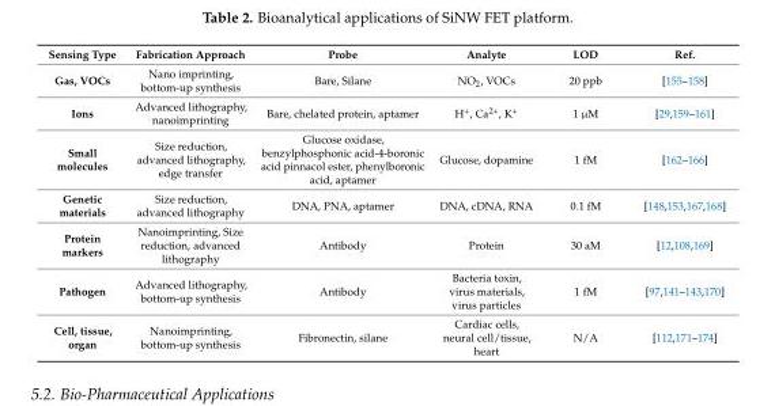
<table><thead><tr><td>Sensing Type</td><td>Fabrication Approach</td><td>Probe</td><td>Analyte</td><td>LOD</td><td>Ref.</td></tr></thead><tbody><tr><td>Gas, VOCs</td><td>Nano imprinting, bottom-up synthesis</td><td>Bare, Silane</td><td>NO<sub>2</sub>, VOCs</td><td>20 ppb</td><td>[155–158]</td></tr><tr><td>Ions</td><td>Advanced lithography, nanoimprinting</td><td>Bare, chelated protein, aptamer</td><td>H<sup>+</sup>, Ca<sup>2+</sup>, K<sup>+</sup></td><td>1 µM</td><td>[29,159–161]</td></tr><tr><td>Small molecules</td><td>Size reduction, advanced lithography, edge transfer</td><td>Glucose oxidase, benzylphosphonic acid-4-boronic acid pinnacol ester, phenylboronic acid, aptamer</td><td>Glucose, dopamine</td><td>1 fM</td><td>[162–166]</td></tr><tr><td>Genetic materials</td><td>Size reduction, advanced lithography</td><td>DNA, PNA, aptamer</td><td>DNA, cDNA, RNA</td><td>0.1 fM</td><td>[148,153,167,168]</td></tr><tr><td>Protein markers</td><td>Nanoimprinting, Size reduction, advanced lithography</td><td>Antibody</td><td>Protein</td><td>30 aM</td><td>[12,108,169]</td></tr><tr><td>Pathogen</td><td>Advanced lithography, bottom-up synthesis</td><td>Antibody</td><td>Bacteria toxin, virus materials, virus particles</td><td>1 fM</td><td>[97,141–143,170]</td></tr><tr><td>Cell, tissue, organ</td><td>Nanoimprinting, bottom-up synthesis</td><td>Fibronectin, silane</td><td>Cardiac cells, neural cell/tissue, heart</td><td>N/A</td><td>[112,171–174]</td></tr></tbody></table>